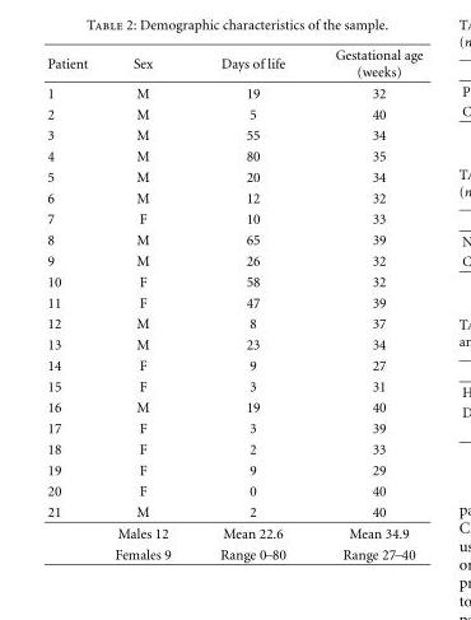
<table><thead><tr><td>Patient</td><td>Sex</td><td>Days of life</td><td>Gestational age (weeks)</td></tr></thead><tbody><tr><td>1</td><td>M</td><td>19</td><td>32</td></tr><tr><td>2</td><td>M</td><td>5</td><td>40</td></tr><tr><td>3</td><td>M</td><td>55</td><td>34</td></tr><tr><td>4</td><td>M</td><td>80</td><td>35</td></tr><tr><td>5</td><td>M</td><td>20</td><td>34</td></tr><tr><td>6</td><td>M</td><td>12</td><td>32</td></tr><tr><td>7</td><td>F</td><td>10</td><td>33</td></tr><tr><td>8</td><td>M</td><td>65</td><td>39</td></tr><tr><td>9</td><td>M</td><td>26</td><td>32</td></tr><tr><td>10</td><td>F</td><td>58</td><td>32</td></tr><tr><td>11</td><td>F</td><td>47</td><td>39</td></tr><tr><td>12</td><td>M</td><td>8</td><td>37</td></tr><tr><td>13</td><td>M</td><td>23</td><td>34</td></tr><tr><td>14</td><td>F</td><td>9</td><td>27</td></tr><tr><td>15</td><td>F</td><td>3</td><td>31</td></tr><tr><td>16</td><td>M</td><td>19</td><td>40</td></tr><tr><td>17</td><td>F</td><td>3</td><td>39</td></tr><tr><td>18</td><td>F</td><td>2</td><td>33</td></tr><tr><td>19</td><td>F</td><td>9</td><td>29</td></tr><tr><td>20</td><td>F</td><td>0</td><td>40</td></tr><tr><td rowspan="3">21</td><td>M</td><td>2</td><td>40</td></tr><tr><td>Males 12</td><td>Mean 22.6</td><td>Mean 34.9</td></tr><tr><td>Females 9</td><td>Range 0−80</td><td>Range 27−40</td></tr></tbody></table>